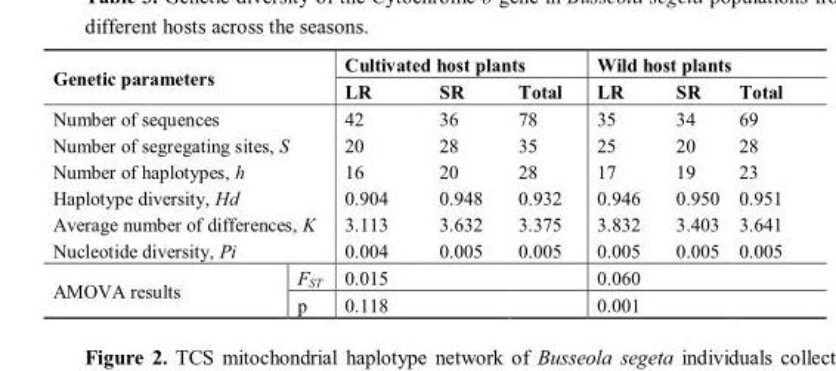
<table><thead><tr><td rowspan="2" colspan="2">Genetic parameters</td><td colspan="3">Cultivated host plants</td><td colspan="3">Wild host plants</td></tr><tr><td>LR</td><td>SR</td><td>Total</td><td>LR</td><td>SR</td><td>Total</td></tr></thead><tbody><tr><td colspan="2">Number of sequences</td><td>42</td><td>36</td><td>78</td><td>35</td><td>34</td><td>69</td></tr><tr><td colspan="2">Number of segregating sites, S</td><td>20</td><td>28</td><td>35</td><td>25</td><td>20</td><td>28</td></tr><tr><td colspan="2">Number of haplotypes, h</td><td>16</td><td>20</td><td>28</td><td>17</td><td>19</td><td>23</td></tr><tr><td colspan="2">Haplotype diversity, Hd</td><td>0.904</td><td>0.948</td><td>0.932</td><td>0.946</td><td>0.950</td><td>0.951</td></tr><tr><td colspan="2">Average number of differences, K</td><td>3.113</td><td>3.632</td><td>3.375</td><td>3.832</td><td>3.403</td><td>3.641</td></tr><tr><td colspan="2">Nucleotide diversity, Pi</td><td>0.004</td><td>0.005</td><td>0.005</td><td>0.005</td><td>0.005</td><td>0.005</td></tr><tr><td rowspan="2">AMOVA results</td><td>F<sub>ST</sub></td><td colspan="2">0.015</td><td></td><td colspan="2">0.060</td><td></td></tr><tr><td>p</td><td colspan="2">0.118</td><td></td><td colspan="2">0.001</td><td></td></tr></tbody></table>